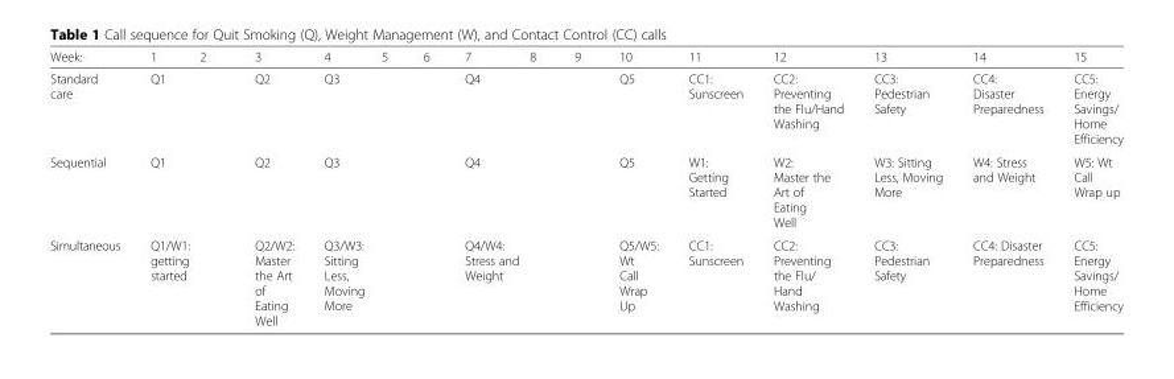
<table><thead><tr><td>Week:</td><td>1</td><td>2</td><td>3</td><td>4</td><td>5</td><td>6</td><td>7</td><td>8</td><td>9</td><td>10</td><td>11</td><td>12</td><td>13</td><td>14</td><td>15</td></tr></thead><tbody><tr><td>Standard care</td><td>Q1</td><td></td><td>Q2</td><td>Q3</td><td></td><td></td><td>Q4</td><td></td><td></td><td>Q5</td><td>CC1: Sunscreen</td><td>CC2: Preventing the Flu/Hand Washing</td><td>CC3: Pedestrian Safety</td><td>CC4: Disaster Preparedness</td><td>CC5: Energy Savings/ Home Efficiency</td></tr><tr><td>Sequential</td><td>Q1</td><td></td><td>Q2</td><td>Q3</td><td></td><td></td><td>Q4</td><td></td><td></td><td>Q5</td><td>W1: Getting Started</td><td>W2: Master the Art of Eating Well</td><td>W3: Sitting Less, Moving More</td><td>W4: Stress and Weight</td><td>W5: Wt Call Wrap up</td></tr><tr><td>Simultaneous</td><td>Q1/W1: getting started</td><td></td><td>Q2/W2: Master the Art of Eating Well</td><td>Q3/W3: Sitting Less, Moving More</td><td></td><td></td><td>Q4/W4: Stress and Weight</td><td></td><td></td><td>Q5/W5: Wt Call Wrap Up</td><td>CC1: Sunscreen</td><td>CC2: Preventing the Flu/ Hand Washing</td><td>CC3: Pedestrian Safety</td><td>CC4: Disaster Preparedness</td><td>CC5: Energy Savings/ Home Efficiency</td></tr></tbody></table>